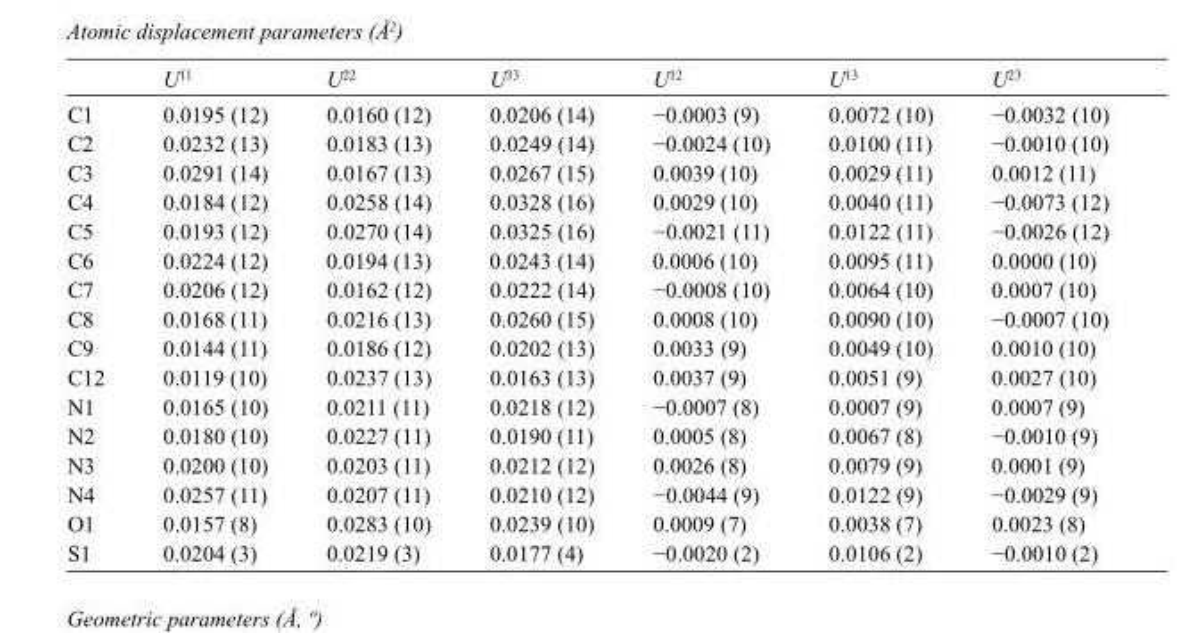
<table><thead><tr><td></td><td>U<sup>11</sup></td><td>U<sup>22</sup></td><td>U<sup>33</sup></td><td>U<sup>12</sup></td><td>U<sup>13</sup></td><td>U<sup>23</sup></td></tr></thead><tbody><tr><td>C1</td><td>0.0195 (12)</td><td>0.0160 (12)</td><td>0.0206 (14)</td><td>−0.0003 (9)</td><td>0.0072 (10)</td><td>−0.0032 (10)</td></tr><tr><td>C2</td><td>0.0232 (13)</td><td>0.0183 (13)</td><td>0.0249 (14)</td><td>−0.0024 (10)</td><td>0.0100 (11)</td><td>−0.0010 (10)</td></tr><tr><td>C3</td><td>0.0291 (14)</td><td>0.0167 (13)</td><td>0.0267 (15)</td><td>0.0039 (10)</td><td>0.0029 (11)</td><td>0.0012 (11)</td></tr><tr><td>C4</td><td>0.0184 (12)</td><td>0.0258 (14)</td><td>0.0328 (16)</td><td>0.0029 (10)</td><td>0.0040 (11)</td><td>−0.0073 (12)</td></tr><tr><td>C5</td><td>0.0193 (12)</td><td>0.0270 (14)</td><td>0.0325 (16)</td><td>−0.0021 (11)</td><td>0.0122 (11)</td><td>−0.0026 (12)</td></tr><tr><td>C6</td><td>0.0224 (12)</td><td>0.0194 (13)</td><td>0.0243 (14)</td><td>0.0006 (10)</td><td>0.0095 (11)</td><td>0.0000 (10)</td></tr><tr><td>C7</td><td>0.0206 (12)</td><td>0.0162 (12)</td><td>0.0222 (14)</td><td>−0.0008 (10)</td><td>0.0064 (10)</td><td>0.0007 (10)</td></tr><tr><td>C8</td><td>0.0168 (11)</td><td>0.0216 (13)</td><td>0.0260 (15)</td><td>0.0008 (10)</td><td>0.0090 (10)</td><td>−0.0007 (10)</td></tr><tr><td>C9</td><td>0.0144 (11)</td><td>0.0186 (12)</td><td>0.0202 (13)</td><td>0.0033 (9)</td><td>0.0049 (10)</td><td>0.0010 (10)</td></tr><tr><td>C12</td><td>0.0119 (10)</td><td>0.0237 (13)</td><td>0.0163 (13)</td><td>0.0037 (9)</td><td>0.0051 (9)</td><td>0.0027 (10)</td></tr><tr><td>N1</td><td>0.0165 (10)</td><td>0.0211 (11)</td><td>0.0218 (12)</td><td>−0.0007 (8)</td><td>0.0007 (9)</td><td>0.0007 (9)</td></tr><tr><td>N2</td><td>0.0180 (10)</td><td>0.0227 (11)</td><td>0.0190 (11)</td><td>0.0005 (8)</td><td>0.0067 (8)</td><td>−0.0010 (9)</td></tr><tr><td>N3</td><td>0.0200 (10)</td><td>0.0203 (11)</td><td>0.0212 (12)</td><td>0.0026 (8)</td><td>0.0079 (9)</td><td>0.0001 (9)</td></tr><tr><td>N4</td><td>0.0257 (11)</td><td>0.0207 (11)</td><td>0.0210 (12)</td><td>−0.0044 (9)</td><td>0.0122 (9)</td><td>−0.0029 (9)</td></tr><tr><td>O1</td><td>0.0157 (8)</td><td>0.0283 (10)</td><td>0.0239 (10)</td><td>0.0009 (7)</td><td>0.0038 (7)</td><td>0.0023 (8)</td></tr><tr><td>S1</td><td>0.0204 (3)</td><td>0.0219 (3)</td><td>0.0177 (4)</td><td>−0.0020 (2)</td><td>0.0106 (2)</td><td>−0.0010 (2)</td></tr></tbody></table>